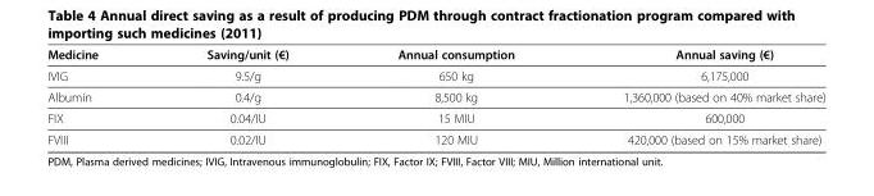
<table><thead><tr><td>Medicine</td><td>Saving/unit (€)</td><td>Annual consumption</td><td>Annual saving (€)</td></tr></thead><tbody><tr><td>IVIG</td><td>9.5/g</td><td>650 kg</td><td>6,175,000</td></tr><tr><td>Albumin</td><td>0.4/g</td><td>8,500 kg</td><td>1,360,000 (based on 40% market share)</td></tr><tr><td>FIX</td><td>0.04/IU</td><td>15 MIU</td><td>600,000</td></tr><tr><td>FVIII</td><td>0.02/IU</td><td>120 MIU</td><td>420,000 (based on 15% market share)</td></tr></tbody></table>